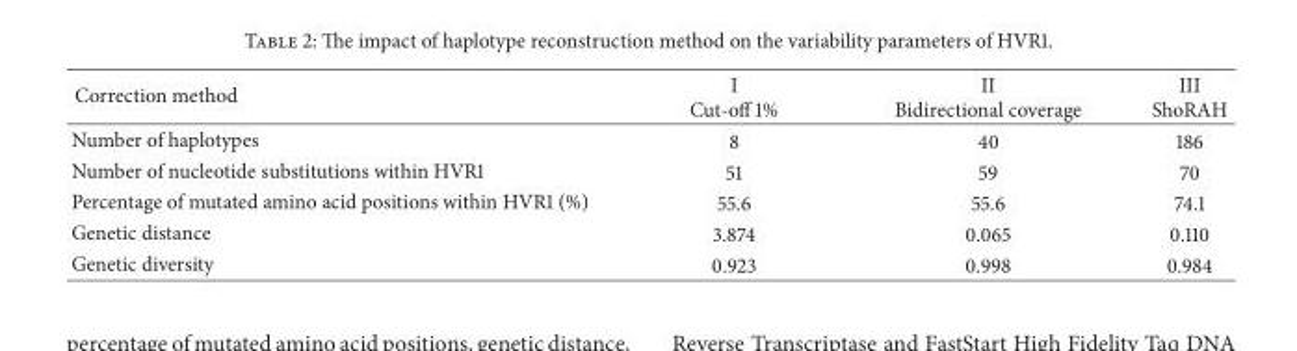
<table><thead><tr><td>Correction method</td><td>I Cut-off 1%</td><td>II Bidirectional coverage</td><td>III ShoRAH</td></tr></thead><tbody><tr><td>Number of haplotypes</td><td>8</td><td>40</td><td>186</td></tr><tr><td>Number of nucleotide substitutions within HVR1</td><td>51</td><td>59</td><td>70</td></tr><tr><td>Percentage of mutated amino acid positions within HVR1 (%)</td><td>55.6</td><td>55.6</td><td>74.1</td></tr><tr><td>Genetic distance</td><td>3.874</td><td>0.065</td><td>0.110</td></tr><tr><td>Genetic diversity</td><td>0.923</td><td>0.998</td><td>0.984</td></tr></tbody></table>